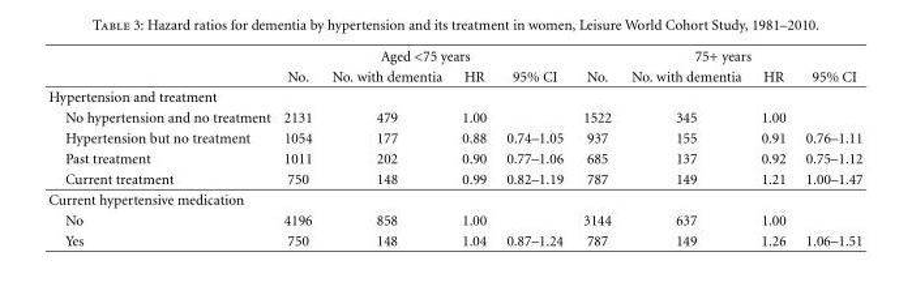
<table><thead><tr><td rowspan="2"></td><td colspan="4">Aged &lt;75 years</td><td colspan="4">75+ years</td></tr><tr><td>No.</td><td>No. with dementia</td><td>HR</td><td>95% CI</td><td>No.</td><td>No. with dementia</td><td>HR</td><td>95% CI</td></tr></thead><tbody><tr><td colspan="9">Hypertension and treatment</td></tr><tr><td>No hypertension and no treatment</td><td>2131</td><td>479</td><td>1.00</td><td></td><td>1522</td><td>345</td><td>1.00</td><td></td></tr><tr><td>Hypertension but no treatment</td><td>1054</td><td>177</td><td>0.88</td><td>0.74–1.05</td><td>937</td><td>155</td><td>0.91</td><td>0.76–1.11</td></tr><tr><td>Past treatment</td><td>1011</td><td>202</td><td>0.90</td><td>0.77–1.06</td><td>685</td><td>137</td><td>0.92</td><td>0.75–1.12</td></tr><tr><td>Current treatment</td><td>750</td><td>148</td><td>0.99</td><td>0.82–1.19</td><td>787</td><td>149</td><td>1.21</td><td>1.00–1.47</td></tr><tr><td colspan="9">Current hypertensive medication</td></tr><tr><td>No</td><td>4196</td><td>858</td><td>1.00</td><td></td><td>3144</td><td>637</td><td>1.00</td><td></td></tr><tr><td>Yes</td><td>750</td><td>148</td><td>1.04</td><td>0.87–1.24</td><td>787</td><td>149</td><td>1.26</td><td>1.06–1.51</td></tr></tbody></table>